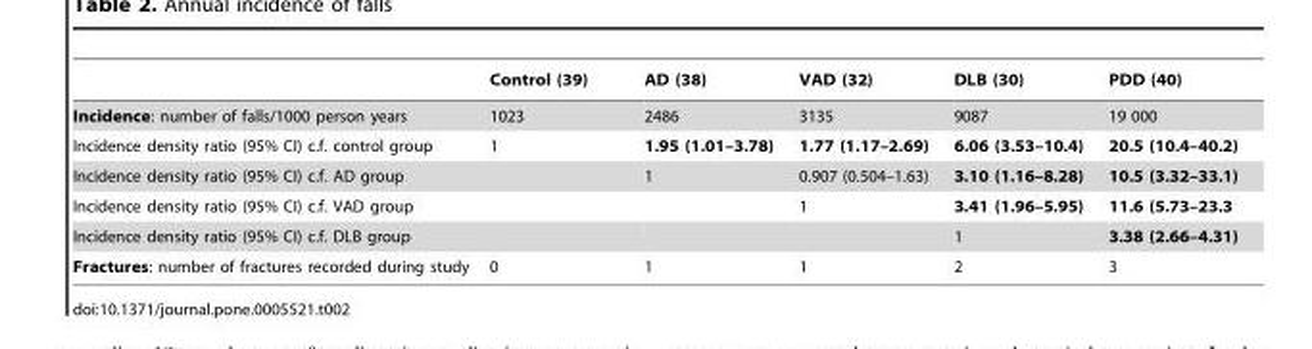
<table><thead><tr><td></td><td>Control (39)</td><td>AD (38)</td><td>VAD (32)</td><td>DLB (30)</td><td>PDD (40)</td></tr></thead><tbody><tr><td>Incidence: number of falls/1000 person years</td><td>1023</td><td>2486</td><td>3135</td><td>9087</td><td>19 000</td></tr><tr><td>Incidence density ratio (95% CI) c.f. control group</td><td>1</td><td>1.95 (1.01–3.78)</td><td>1.77 (1.17–2.69)</td><td>6.06 (3.53–10.4)</td><td>20.5 (10.4–40.2)</td></tr><tr><td>Incidence density ratio (95% CI) c.f. AD group</td><td></td><td>1</td><td>0.907 (0.504–1.63)</td><td>3.10 (1.16–8.28)</td><td>10.5 (3.32–33.1)</td></tr><tr><td>Incidence density ratio (95% CI) c.f. VAD group</td><td></td><td></td><td>1</td><td>3.41 (1.96–5.95)</td><td>11.6 (5.73–23.3</td></tr><tr><td>Incidence density ratio (95% CI) c.f. DLB group</td><td></td><td></td><td></td><td>1</td><td>3.38 (2.66–4.31)</td></tr><tr><td>Fractures: number of fractures recorded during study</td><td>0</td><td>1</td><td>1</td><td>2</td><td>3</td></tr></tbody></table>